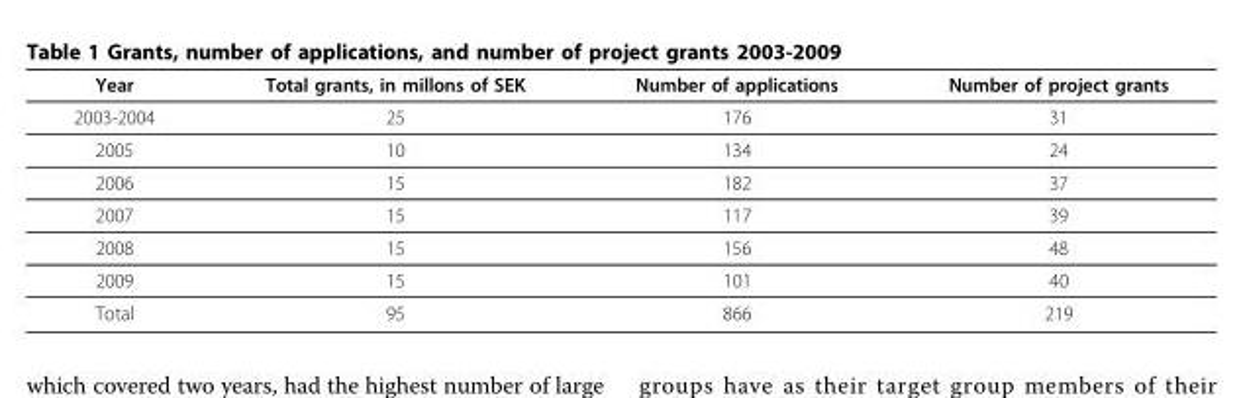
<table><thead><tr><td>Year</td><td>Total grants, in millons of SEK</td><td>Number of applications</td><td>Number of project grants</td></tr></thead><tbody><tr><td>2003-2004</td><td>25</td><td>176</td><td>31</td></tr><tr><td>2005</td><td>10</td><td>134</td><td>24</td></tr><tr><td>2006</td><td>15</td><td>182</td><td>37</td></tr><tr><td>2007</td><td>15</td><td>117</td><td>39</td></tr><tr><td>2008</td><td>15</td><td>156</td><td>48</td></tr><tr><td>2009</td><td>15</td><td>101</td><td>40</td></tr><tr><td>Total</td><td>95</td><td>866</td><td>219</td></tr></tbody></table>